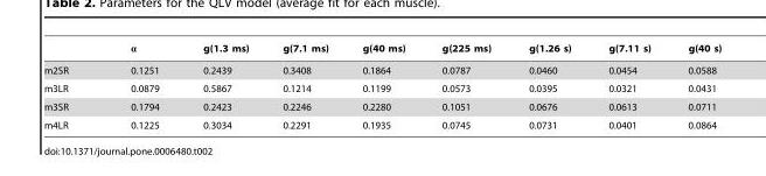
<table><thead><tr><td></td><td>α</td><td>g(1.3 ms)</td><td>g(7.1 ms)</td><td>g(40 ms)</td><td>g(225 ms)</td><td>g(1.26 s)</td><td>g(7.11 s)</td><td>g(40 s)</td></tr></thead><tbody><tr><td>m2SR</td><td>0.1251</td><td>0.2439</td><td>0.3408</td><td>0.1864</td><td>0.0787</td><td>0.0460</td><td>0.0454</td><td>0.0588</td></tr><tr><td>m3LR</td><td>0.0879</td><td>0.5867</td><td>0.1214</td><td>0.1199</td><td>0.0573</td><td>0.0395</td><td>0.0321</td><td>0.0431</td></tr><tr><td>m3SR</td><td>0.1794</td><td>0.2423</td><td>0.2246</td><td>0.2280</td><td>0.1051</td><td>0.0676</td><td>0.0613</td><td>0.0711</td></tr><tr><td>m4LR</td><td>0.1225</td><td>0.3034</td><td>0.2291</td><td>0.1935</td><td>0.0745</td><td>0.0731</td><td>0.0401</td><td>0.0864</td></tr></tbody></table>